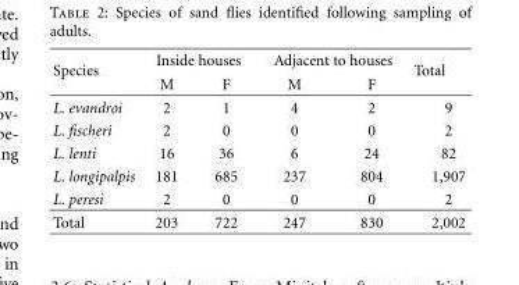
<table><thead><tr><td rowspan="2">Species</td><td colspan="2">Inside houses</td><td colspan="2">Adjacent to houses</td><td rowspan="2">Total</td></tr><tr><td>M</td><td>F</td><td>M</td><td>F</td></tr></thead><tbody><tr><td>L. evandroi</td><td>2</td><td>1</td><td>4</td><td>2</td><td>9</td></tr><tr><td>L. fischeri</td><td>2</td><td>0</td><td>0</td><td>0</td><td>2</td></tr><tr><td>L. lenti</td><td>16</td><td>36</td><td>6</td><td>24</td><td>82</td></tr><tr><td>L. longipalpis</td><td>181</td><td>685</td><td>237</td><td>804</td><td>1,907</td></tr><tr><td>L. peresi</td><td>2</td><td>0</td><td>0</td><td>0</td><td>2</td></tr><tr><td>Total</td><td>203</td><td>722</td><td>247</td><td>830</td><td>2,002</td></tr></tbody></table>